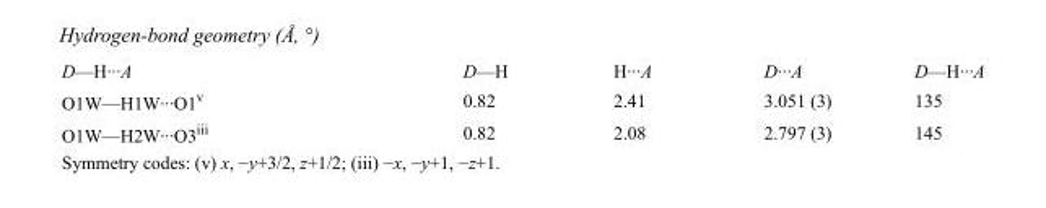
<table><tbody><tr><td>D—H···A</td><td>D—H</td><td>H···A</td><td>D···A</td><td>D—H···A</td></tr><tr><td>O1W—H1W···O1<sup>v</sup></td><td>0.82</td><td>2.41</td><td>3.051 (3)</td><td>135</td></tr><tr><td>O1W—H2W···O3<sup>iii</sup></td><td>0.82</td><td>2.08</td><td>2.797 (3)</td><td>145</td></tr></tbody></table>